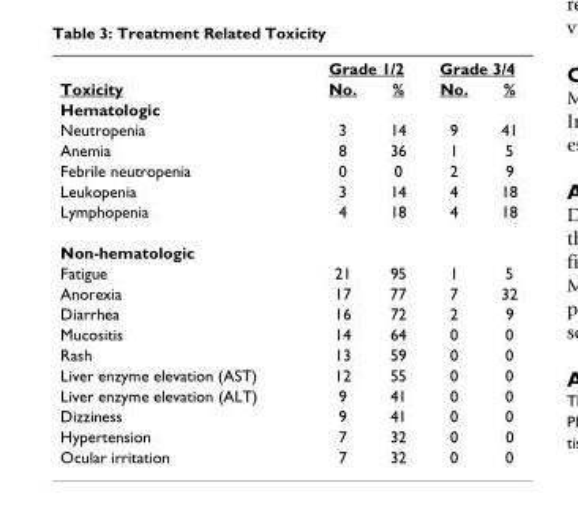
<table><thead><tr><td rowspan="2">Toxicity</td><td colspan="2">Grade 1/2</td><td colspan="2">Grade 3/4</td></tr><tr><td>No.</td><td>%</td><td>No.</td><td>%</td></tr></thead><tbody><tr><td colspan="5">Hematologic</td></tr><tr><td>Neutropenia</td><td>3</td><td>14</td><td>9</td><td>41</td></tr><tr><td>Anemia</td><td>8</td><td>36</td><td>1</td><td>5</td></tr><tr><td>Febrile neutropenia</td><td>0</td><td>0</td><td>2</td><td>9</td></tr><tr><td>Leukopenia</td><td>3</td><td>14</td><td>4</td><td>18</td></tr><tr><td>Lymphopenia</td><td>4</td><td>18</td><td>4</td><td>18</td></tr><tr><td colspan="5">Non-hematologic</td></tr><tr><td>Fatigue</td><td>21</td><td>95</td><td>1</td><td>5</td></tr><tr><td>Anorexia</td><td>17</td><td>77</td><td>7</td><td>32</td></tr><tr><td>Diarrhea</td><td>16</td><td>72</td><td>2</td><td>9</td></tr><tr><td>Mucositis</td><td>14</td><td>64</td><td>0</td><td>0</td></tr><tr><td>Rash</td><td>13</td><td>59</td><td>0</td><td>0</td></tr><tr><td>Liver enzyme elevation (AST)</td><td>12</td><td>55</td><td>0</td><td>0</td></tr><tr><td>Liver enzyme elevation (ALT)</td><td>9</td><td>41</td><td>0</td><td>0</td></tr><tr><td>Dizziness</td><td>9</td><td>41</td><td>0</td><td>0</td></tr><tr><td>Hypertension</td><td>7</td><td>32</td><td>0</td><td>0</td></tr><tr><td>Ocular irritation</td><td>7</td><td>32</td><td>0</td><td>0</td></tr></tbody></table>